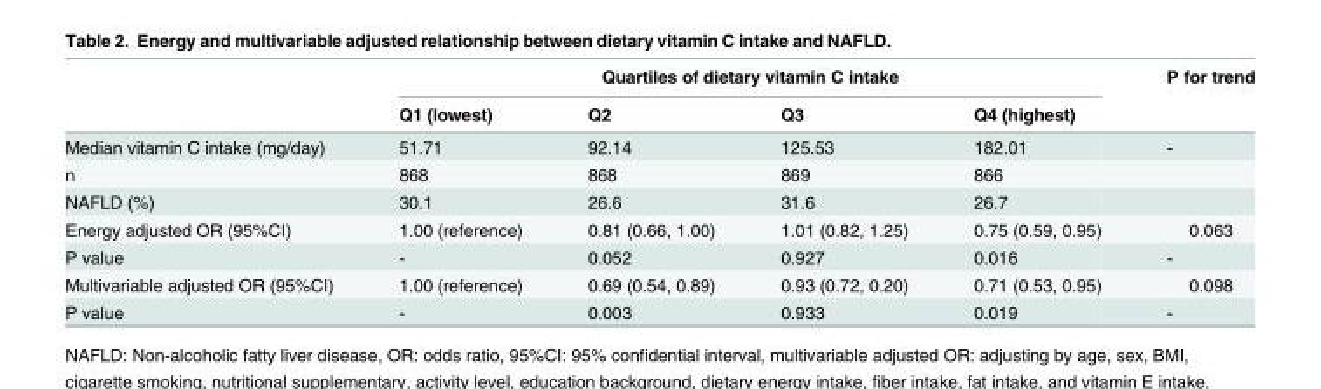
<table><thead><tr><td rowspan="2"></td><td colspan="4">Quartiles of dietary vitamin C intake</td><td rowspan="2">P for trend</td></tr><tr><td>Q1 (lowest)</td><td>Q2</td><td>Q3</td><td>Q4 (highest)</td></tr></thead><tbody><tr><td>Median vitamin C intake (mg/day)</td><td>51.71</td><td>92.14</td><td>125.53</td><td>182.01</td><td>-</td></tr><tr><td>n</td><td>868</td><td>868</td><td>869</td><td>866</td><td></td></tr><tr><td>NAFLD (%)</td><td>30.1</td><td>26.6</td><td>31.6</td><td>26.7</td><td></td></tr><tr><td>Energy adjusted OR (95%CI)</td><td>1.00 (reference)</td><td>0.81 (0.66, 1.00)</td><td>1.01 (0.82, 1.25)</td><td>0.75 (0.59, 0.95)</td><td>0.063</td></tr><tr><td>P value</td><td>-</td><td>0.052</td><td>0.927</td><td>0.016</td><td>-</td></tr><tr><td>Multivariable adjusted OR (95%CI)</td><td>1.00 (reference)</td><td>0.69 (0.54, 0.89)</td><td>0.93 (0.72, 0.20)</td><td>0.71 (0.53, 0.95)</td><td>0.098</td></tr><tr><td>P value</td><td>-</td><td>0.003</td><td>0.933</td><td>0.019</td><td>-</td></tr></tbody></table>